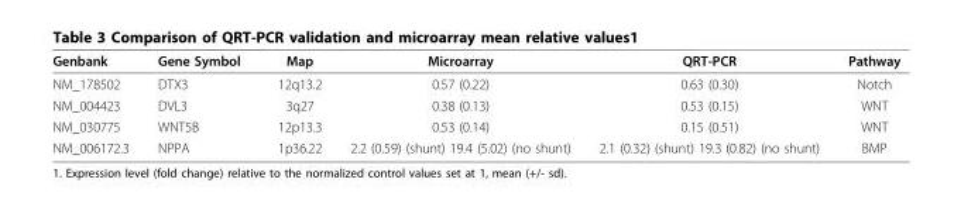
<table><thead><tr><td>Genbank</td><td>Gene Symbol</td><td>Map</td><td>Microarray</td><td>QRT-PCR</td><td>Pathway</td></tr></thead><tbody><tr><td>NM_178502</td><td>DTX3</td><td>12q13.2</td><td>0.57 (0.22)</td><td>0.63 (0.30)</td><td>Notch</td></tr><tr><td>NM_004423</td><td>DVL3</td><td>3q27</td><td>0.38 (0.13)</td><td>0.53 (0.15)</td><td>WNT</td></tr><tr><td>NM_030775</td><td>WNT5B</td><td>12p13.3</td><td>0.53 (0.14)</td><td>0.15 (0.51)</td><td>WNT</td></tr><tr><td>NM_006172.3</td><td>NPPA</td><td>1p36.22</td><td>2.2 (0.59) (shunt) 19.4 (5.02) (no shunt)</td><td>2.1 (0.32) (shunt) 19.3 (0.82) (no shunt)</td><td>BMP</td></tr></tbody></table>